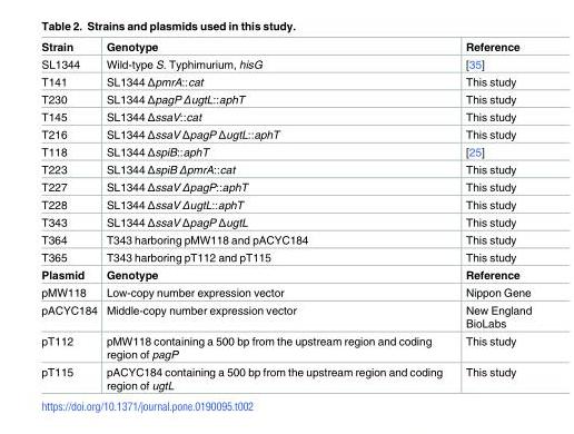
<table><tbody><tr><td>Strain</td><td>Genotype</td><td>Reference</td></tr><tr><td>SL1344</td><td>Wild-type S. Typhimurium, hisG</td><td>[35]</td></tr><tr><td>T141</td><td>SL1344 ΔpmrA::cat</td><td>This study</td></tr><tr><td>T230</td><td>SL1344 ΔpagP ΔugtL::aphT</td><td>This study</td></tr><tr><td>T145</td><td>SL1344 ΔssaV::cat</td><td>This study</td></tr><tr><td>T216</td><td>SL1344 ΔssaV ΔpagP ΔugtL::aphT</td><td>This study</td></tr><tr><td>T118</td><td>SL1344 ΔspiB::aphT</td><td>[25]</td></tr><tr><td>T223</td><td>SL1344 ΔspiB ΔpmrA::cat</td><td>This study</td></tr><tr><td>T227</td><td>SL1344 ΔssaV ΔpagP::aphT</td><td>This study</td></tr><tr><td>T228</td><td>SL1344 ΔssaV ΔugtL::aphT</td><td>This study</td></tr><tr><td>T343</td><td>SL1344 ΔssaV ΔpagP ΔugtL</td><td>This study</td></tr><tr><td>T364</td><td>T343 harboring pMW118 and pACYC184</td><td>This study</td></tr><tr><td>T365</td><td>T343 harboring pT112 and pT115</td><td>This study</td></tr><tr><td>Plasmid</td><td>Genotype</td><td>Reference</td></tr><tr><td>pMW118</td><td>Low-copy number expression vector</td><td>Nippon Gene</td></tr><tr><td>pACYC184</td><td>Middle-copy number expression vector</td><td>New England BioLabs</td></tr><tr><td>pT112</td><td>pMW118 containing a 500 bp from the upstream region and coding region of pagP</td><td>This study</td></tr><tr><td>pT115</td><td>pACYC184 containing a 500 bp from the upstream region and coding region of ugtL</td><td>This study</td></tr></tbody></table>